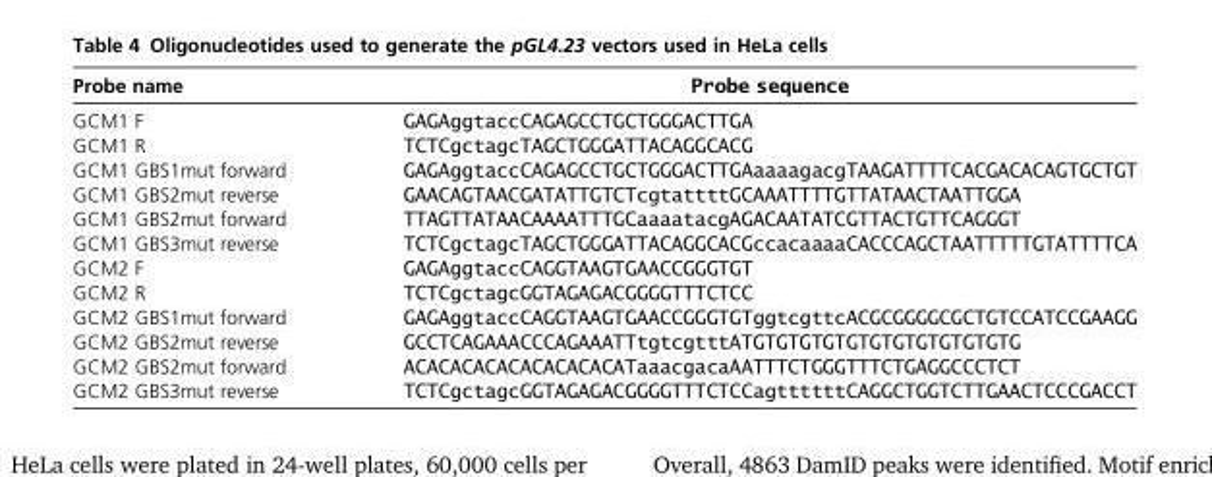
<table><thead><tr><td>Probe name</td><td>Probe sequence</td></tr></thead><tbody><tr><td>GCM1 F</td><td>GAGAggtaccCAGAGCCTGCTGGGACTTGA</td></tr><tr><td>GCM1 R</td><td>TCTCgctagcTAGCTGGGATTACAGGCACG</td></tr><tr><td>GCM1 GBS1mut forward</td><td>GAGAggtaccCAGAGCCTGCTGGGACTTGAaaaagacgTAAGATTTTCACGACACAGTGCTGT</td></tr><tr><td>GCM1 GBS2mut reverse</td><td>GAACAGTAACGATATTGTCTcgtattttGCAAATTTTGTTATAACTAATTGGA</td></tr><tr><td>GCM1 GBS2mut forward</td><td>TTAGTTATAACAAAATTTGCaaaatacgAGACAATATCGTTACTGTTCAGGGT</td></tr><tr><td>GCM1 GBS3mut reverse</td><td>TCTCgctagcTAGCTGGGATTACAGGCACGccacaaaaCACCCAGCTAATTTTTGTATTTTCA</td></tr><tr><td>GCM2 F</td><td>GAGAggtaccCAGGTAAGTGAACCGGGTGT</td></tr><tr><td>GCM2 R</td><td>TCTCgctagcGGTAGAGACGGGGTTTCTCC</td></tr><tr><td>GCM2 GBS1mut forward</td><td>GAGAggtaccCAGGTAAGTGAACCGGGTGTggtcgttcACGCGGGGCGCTGTCCATCCGAAGG</td></tr><tr><td>GCM2 GBS2mut reverse</td><td>GCCTCAGAAACCCAGAAATTtgtcgtttATGTGTGTGTGTGTGTGTGTGTGTG</td></tr><tr><td>GCM2 GBS2mut forward</td><td>ACACACACACACACACACATaaacgacaAATTTCTGGGTTTCTGAGGCCCTCT</td></tr><tr><td>GCM2 GBS3mut reverse</td><td>TCTCgctagcGGTAGAGACGGGGTTTCTCCagttttttCAGGCTGGTCTTGAACTCCCGACCT</td></tr></tbody></table>